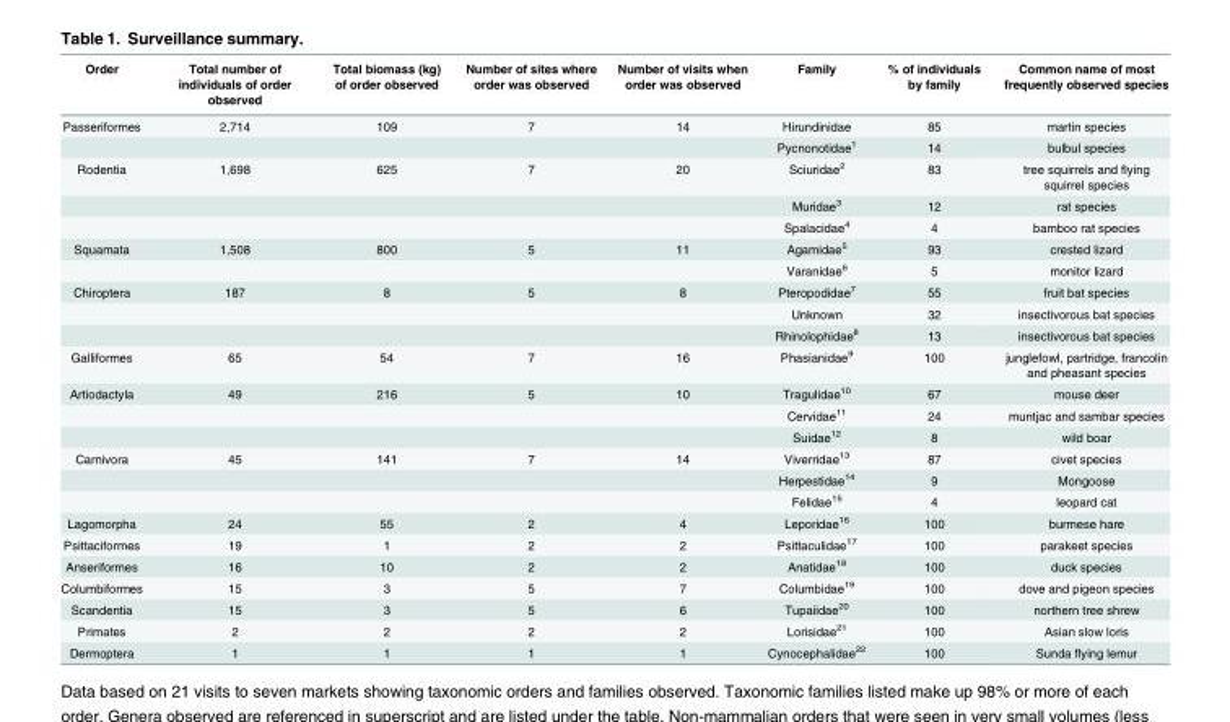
<table><thead><tr><td>Order</td><td>Total number of individuals of order observed</td><td>Total biomass (kg) of order observed</td><td>Number of sites where order was observed</td><td>Number of visits when order was observed</td><td>Family</td><td>% of individuals by family</td><td>Common name of most frequently observed species</td></tr></thead><tbody><tr><td rowspan="2">Passeriformes</td><td>2,714</td><td>109</td><td>7</td><td>14</td><td>Hirundinidae</td><td>85</td><td>martin species</td></tr><tr><td></td><td></td><td></td><td></td><td>Pycnonotidae<sup>1</sup></td><td>14</td><td>bulbul species</td></tr><tr><td rowspan="3">Rodentia</td><td>1,698</td><td>625</td><td>7</td><td>20</td><td>Sciuridae<sup>2</sup></td><td>83</td><td>tree squirrels and flying squirrel species</td></tr><tr><td></td><td></td><td></td><td></td><td>Muridae<sup>3</sup></td><td>12</td><td>rat species</td></tr><tr><td></td><td></td><td></td><td></td><td>Spalacidae<sup>4</sup></td><td>4</td><td>bamboo rat species</td></tr><tr><td rowspan="2">Squamata</td><td>1,508</td><td>800</td><td>5</td><td>11</td><td>Agamidae<sup>5</sup></td><td>93</td><td>crested lizard</td></tr><tr><td></td><td></td><td></td><td></td><td>Varanidae<sup>6</sup></td><td>5</td><td>monitor lizard</td></tr><tr><td rowspan="3">Chiroptera</td><td>187</td><td>8</td><td>5</td><td>8</td><td>Pteropodidae<sup>7</sup></td><td>55</td><td>fruit bat species</td></tr><tr><td></td><td></td><td></td><td></td><td>Unknown</td><td>32</td><td>insectivorous bat species</td></tr><tr><td></td><td></td><td></td><td></td><td>Rhinolophidae<sup>8</sup></td><td>13</td><td>insectivorous bat species</td></tr><tr><td>Galliformes</td><td>65</td><td>54</td><td>7</td><td>16</td><td>Phasianidae<sup>9</sup></td><td>100</td><td>junglefowl, partridge, francolin and pheasant species</td></tr><tr><td rowspan="3">Artiodactyla</td><td>49</td><td>216</td><td>5</td><td>10</td><td>Tragulidae<sup>10</sup></td><td>67</td><td>mouse deer</td></tr><tr><td></td><td></td><td></td><td></td><td>Cervidae<sup>11</sup></td><td>24</td><td>muntjac and sambar species</td></tr><tr><td></td><td></td><td></td><td></td><td>Suidae<sup>12</sup></td><td>8</td><td>wild boar</td></tr><tr><td rowspan="3">Carnivora</td><td>45</td><td>141</td><td>7</td><td>14</td><td>Viverridae<sup>13</sup></td><td>87</td><td>civet species</td></tr><tr><td></td><td></td><td></td><td></td><td>Herpestidae<sup>14</sup></td><td>9</td><td>Mongoose</td></tr><tr><td></td><td></td><td></td><td></td><td>Felidae<sup>15</sup></td><td>4</td><td>leopard cat</td></tr><tr><td>Lagomorpha</td><td>24</td><td>55</td><td>2</td><td>4</td><td>Leporidae<sup>16</sup></td><td>100</td><td>burmese hare</td></tr><tr><td>Psittaciformes</td><td>19</td><td>1</td><td>2</td><td>2</td><td>Psittaculidae<sup>17</sup></td><td>100</td><td>parakeet species</td></tr><tr><td>Anseriformes</td><td>16</td><td>10</td><td>2</td><td>2</td><td>Anatidae<sup>18</sup></td><td>100</td><td>duck species</td></tr><tr><td>Columbiformes</td><td>15</td><td>3</td><td>5</td><td>7</td><td>Columbidae<sup>19</sup></td><td>100</td><td>dove and pigeon species</td></tr><tr><td>Scandentia</td><td>15</td><td>3</td><td>5</td><td>6</td><td>Tupaiidae<sup>20</sup></td><td>100</td><td>northern tree shrew</td></tr><tr><td>Primates</td><td>2</td><td>2</td><td>2</td><td>2</td><td>Lorisidae<sup>21</sup></td><td>100</td><td>Asian slow loris</td></tr><tr><td>Dermoptera</td><td>1</td><td>1</td><td>1</td><td>1</td><td>Cynocephalidae<sup>22</sup></td><td>100</td><td>Sunda flying lemur</td></tr></tbody></table>